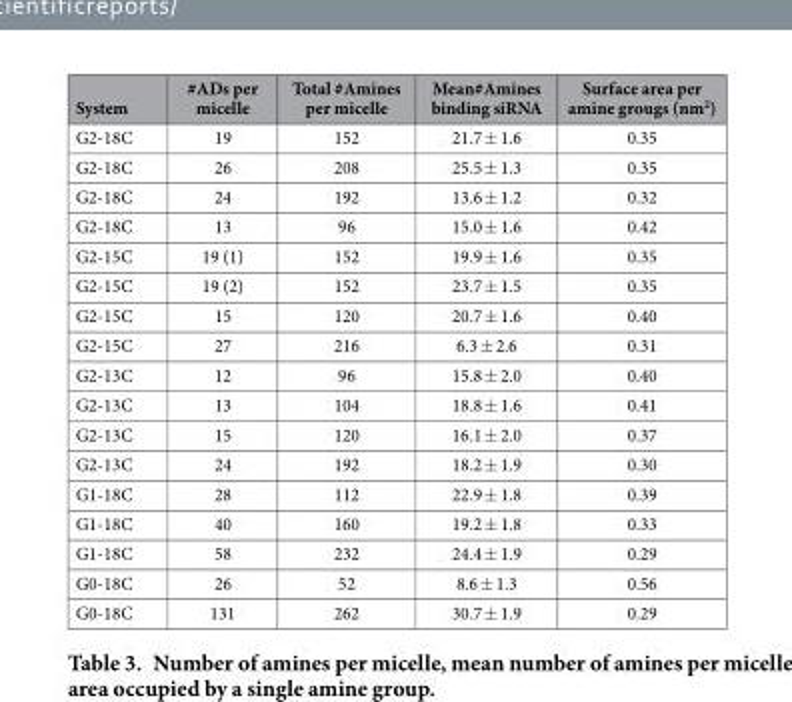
<table><thead><tr><td>System</td><td>#ADs per micelle</td><td>Total #Amines per micelle</td><td>Mean#Amines binding siRNA</td><td>Surface area per amine grougs (nm<sup>2</sup>)</td></tr></thead><tbody><tr><td>G2-18C</td><td>19</td><td>152</td><td>21.7 ± 1.6</td><td>0.35</td></tr><tr><td>G2-18C</td><td>26</td><td>208</td><td>25.5 ± 1.3</td><td>0.35</td></tr><tr><td>G2-18C</td><td>24</td><td>192</td><td>13.6 ± 1.2</td><td>0.32</td></tr><tr><td>G2-18C</td><td>13</td><td>96</td><td>15.0 ± 1.6</td><td>0.42</td></tr><tr><td>G2-15C</td><td>19 (1)</td><td>152</td><td>19.9 ± 1.6</td><td>0.35</td></tr><tr><td>G2-15C</td><td>19 (2)</td><td>152</td><td>23.7 ± 1.5</td><td>0.35</td></tr><tr><td>G2-15C</td><td>15</td><td>120</td><td>20.7 ± 1.6</td><td>0.40</td></tr><tr><td>G2-15C</td><td>27</td><td>216</td><td>6.3 ± 2.6</td><td>0.31</td></tr><tr><td>G2-13C</td><td>12</td><td>96</td><td>15.8 ± 2.0</td><td>0.40</td></tr><tr><td>G2-13C</td><td>13</td><td>104</td><td>18.8 ± 1.6</td><td>0.41</td></tr><tr><td>G2-13C</td><td>15</td><td>120</td><td>16.1 ± 2.0</td><td>0.37</td></tr><tr><td>G2-13C</td><td>24</td><td>192</td><td>18.2 ± 1.9</td><td>0.30</td></tr><tr><td>G1-18C</td><td>28</td><td>112</td><td>22.9 ± 1.8</td><td>0.39</td></tr><tr><td>G1-18C</td><td>40</td><td>160</td><td>19.2 ± 1.8</td><td>0.33</td></tr><tr><td>G1-18C</td><td>58</td><td>232</td><td>24.4 ± 1.9</td><td>0.29</td></tr><tr><td>G0-18C</td><td>26</td><td>52</td><td>8.6 ± 1.3</td><td>0.56</td></tr><tr><td>G0-18C</td><td>131</td><td>262</td><td>30.7 ± 1.9</td><td>0.29</td></tr></tbody></table>